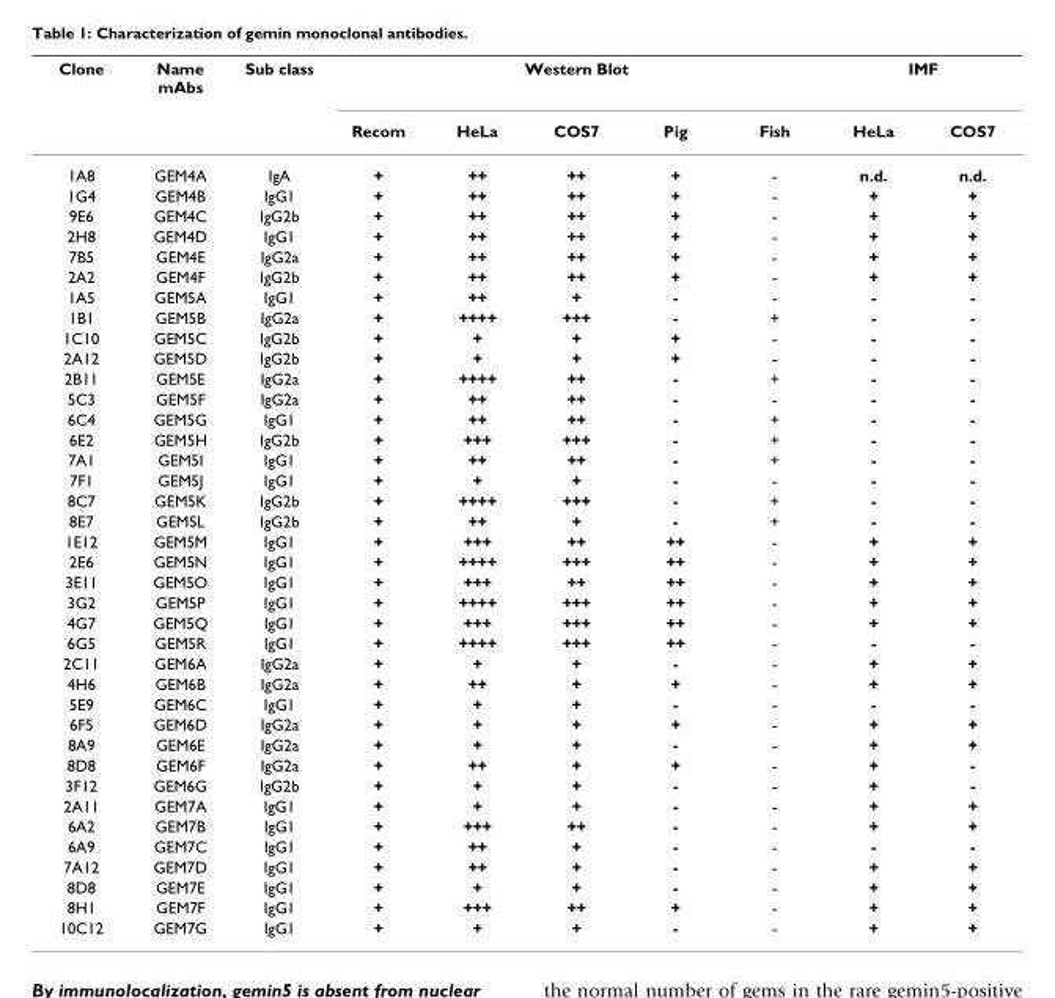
<table><thead><tr><td rowspan="2">Clone</td><td rowspan="2">Name mAbs</td><td rowspan="2">Sub class</td><td colspan="5">Western Blot</td><td colspan="2">IMF</td></tr><tr><td>Recom</td><td>HeLa</td><td>COS7</td><td>Pig</td><td>Fish</td><td>HeLa</td><td>COS7</td></tr></thead><tbody><tr><td>1A8</td><td>GEM4A</td><td>IgA</td><td>+</td><td>++</td><td>++</td><td>+</td><td>-</td><td>n.d.</td><td>n.d.</td></tr><tr><td>1G4</td><td>GEM4B</td><td>IgG1</td><td>+</td><td>++</td><td>++</td><td>+</td><td>-</td><td>+</td><td>+</td></tr><tr><td>9E6</td><td>GEM4C</td><td>IgG2b</td><td>+</td><td>++</td><td>++</td><td>+</td><td>-</td><td>+</td><td>+</td></tr><tr><td>2H8</td><td>GEM4D</td><td>IgG1</td><td>+</td><td>++</td><td>++</td><td>+</td><td>-</td><td>+</td><td>+</td></tr><tr><td>7B5</td><td>GEM4E</td><td>IgG2a</td><td>+</td><td>++</td><td>++</td><td>+</td><td>-</td><td>+</td><td>+</td></tr><tr><td>2A2</td><td>GEM4F</td><td>IgG2b</td><td>+</td><td>++</td><td>++</td><td>+</td><td>-</td><td>+</td><td>+</td></tr><tr><td>1A5</td><td>GEM5A</td><td>IgG1</td><td>+</td><td>++</td><td>+</td><td>-</td><td>-</td><td>-</td><td>-</td></tr><tr><td>1B1</td><td>GEM5B</td><td>IgG2a</td><td>+</td><td>++++</td><td>+++</td><td>-</td><td>+</td><td>-</td><td>-</td></tr><tr><td>1C10</td><td>GEM5C</td><td>IgG2b</td><td>+</td><td>+</td><td>+</td><td>+</td><td>-</td><td>-</td><td>-</td></tr><tr><td>2A12</td><td>GEM5D</td><td>IgG2b</td><td>+</td><td>+</td><td>+</td><td>+</td><td>-</td><td>-</td><td>-</td></tr><tr><td>2B11</td><td>GEM5E</td><td>IgG2a</td><td>+</td><td>++++</td><td>++</td><td>-</td><td>+</td><td>-</td><td>-</td></tr><tr><td>5C3</td><td>GEM5F</td><td>IgG2a</td><td>+</td><td>++</td><td>++</td><td>-</td><td>-</td><td>-</td><td>-</td></tr><tr><td>6C4</td><td>GEM5G</td><td>IgG1</td><td>+</td><td>++</td><td>++</td><td>-</td><td>+</td><td>-</td><td>-</td></tr><tr><td>6E2</td><td>GEM5H</td><td>IgG2b</td><td>+</td><td>+++</td><td>+++</td><td>-</td><td>+</td><td>-</td><td>-</td></tr><tr><td>7A1</td><td>GEM5I</td><td>IgG1</td><td>+</td><td>++</td><td>++</td><td>-</td><td>+</td><td>-</td><td>-</td></tr><tr><td>7F1</td><td>GEM5J</td><td>IgG1</td><td>+</td><td>+</td><td>+</td><td>-</td><td>-</td><td>-</td><td>-</td></tr><tr><td>8C7</td><td>GEM5K</td><td>IgG2b</td><td>+</td><td>++++</td><td>+++</td><td>-</td><td>+</td><td>-</td><td>-</td></tr><tr><td>8E7</td><td>GEM5L</td><td>IgG2b</td><td>+</td><td>++</td><td>+</td><td>-</td><td>+</td><td>-</td><td>-</td></tr><tr><td>1E12</td><td>GEM5M</td><td>IgG1</td><td>+</td><td>+++</td><td>++</td><td>++</td><td>-</td><td>+</td><td>+</td></tr><tr><td>2E6</td><td>GEM5N</td><td>IgG1</td><td>+</td><td>++++</td><td>+++</td><td>++</td><td>-</td><td>+</td><td>+</td></tr><tr><td>3E11</td><td>GEM5O</td><td>IgG1</td><td>+</td><td>+++</td><td>++</td><td>++</td><td>-</td><td>+</td><td>+</td></tr><tr><td>3G2</td><td>GEM5P</td><td>IgG1</td><td>+</td><td>++++</td><td>+++</td><td>++</td><td>-</td><td>+</td><td>+</td></tr><tr><td>4G7</td><td>GEM5Q</td><td>IgG1</td><td>+</td><td>+++</td><td>+++</td><td>++</td><td>-</td><td>+</td><td>+</td></tr><tr><td>6G5</td><td>GEM5R</td><td>IgG1</td><td>+</td><td>++++</td><td>+++</td><td>++</td><td>-</td><td>-</td><td>-</td></tr><tr><td>2C11</td><td>GEM6A</td><td>IgG2a</td><td>+</td><td>+</td><td>+</td><td>-</td><td>-</td><td>+</td><td>+</td></tr><tr><td>4H6</td><td>GEM6B</td><td>IgG2a</td><td>+</td><td>++</td><td>+</td><td>+</td><td>-</td><td>+</td><td>+</td></tr><tr><td>5E9</td><td>GEM6C</td><td>IgG1</td><td>+</td><td>+</td><td>+</td><td>-</td><td>-</td><td>-</td><td>-</td></tr><tr><td>6F5</td><td>GEM6D</td><td>IgG2a</td><td>+</td><td>+</td><td>+</td><td>+</td><td>-</td><td>+</td><td>+</td></tr><tr><td>8A9</td><td>GEM6E</td><td>IgG2a</td><td>+</td><td>+</td><td>+</td><td>-</td><td>-</td><td>+</td><td>+</td></tr><tr><td>8D8</td><td>GEM6F</td><td>IgG2a</td><td>+</td><td>++</td><td>+</td><td>+</td><td>-</td><td>+</td><td>-</td></tr><tr><td>3F12</td><td>GEM6G</td><td>IgG2b</td><td>+</td><td>+</td><td>+</td><td>-</td><td>-</td><td>+</td><td>-</td></tr><tr><td>2A11</td><td>GEM7A</td><td>IgG1</td><td>+</td><td>+</td><td>+</td><td>-</td><td>-</td><td>+</td><td>+</td></tr><tr><td>6A2</td><td>GEM7B</td><td>IgG1</td><td>+</td><td>+++</td><td>++</td><td>-</td><td>-</td><td>+</td><td>+</td></tr><tr><td>6A9</td><td>GEM7C</td><td>IgG1</td><td>+</td><td>++</td><td>+</td><td>-</td><td>-</td><td>-</td><td>-</td></tr><tr><td>7A12</td><td>GEM7D</td><td>IgG1</td><td>+</td><td>++</td><td>+</td><td>-</td><td>-</td><td>+</td><td>+</td></tr><tr><td>8D8</td><td>GEM7E</td><td>IgG1</td><td>+</td><td>+</td><td>+</td><td>-</td><td>-</td><td>+</td><td>+</td></tr><tr><td>8H1</td><td>GEM7F</td><td>IgG1</td><td>+</td><td>+++</td><td>++</td><td>+</td><td>-</td><td>+</td><td>+</td></tr><tr><td>10C12</td><td>GEM7G</td><td>IgG1</td><td>+</td><td>+</td><td>+</td><td>-</td><td>-</td><td>+</td><td>+</td></tr></tbody></table>